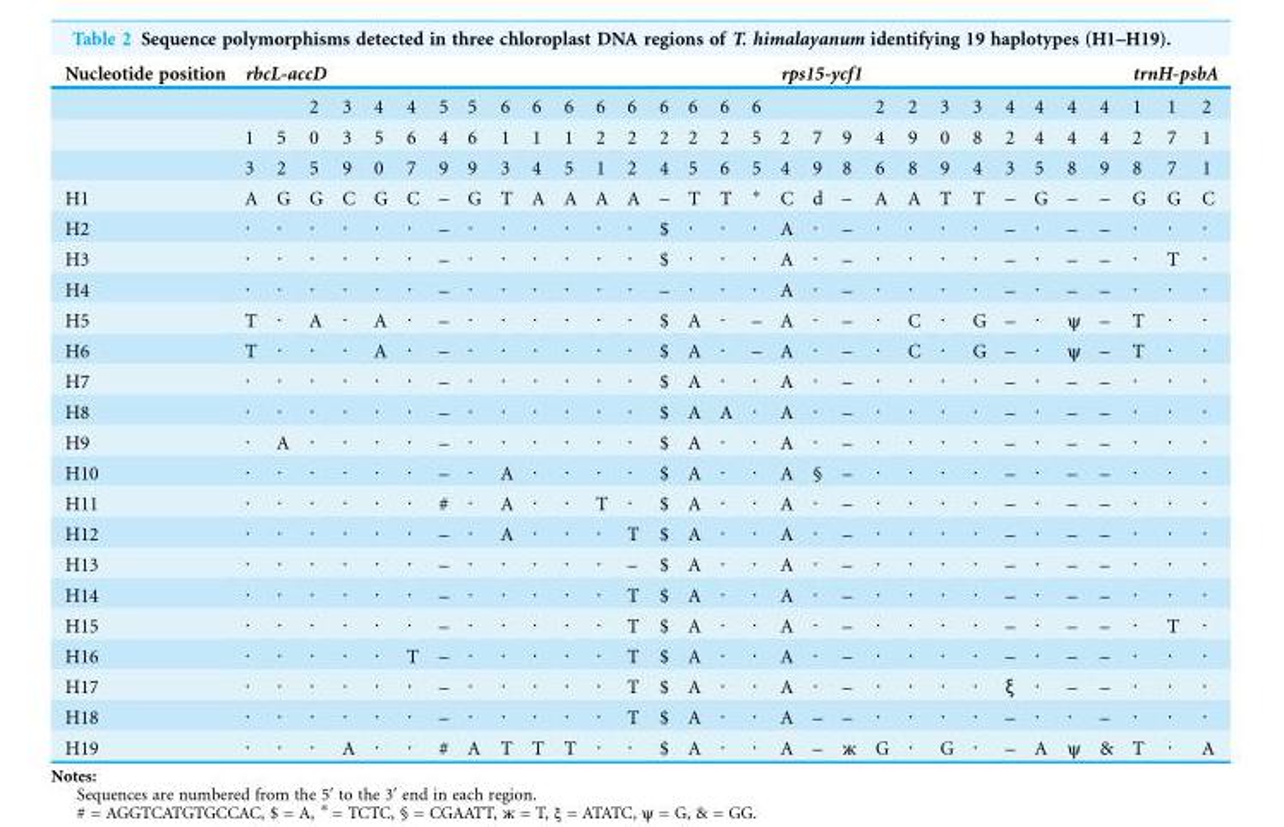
<table><thead><tr><td rowspan="2">Nucleotide position</td><td colspan="17">rbcL-accD</td><td colspan="11">rps15-ycf1</td><td colspan="3">trnH-psbA</td></tr><tr><td></td><td></td><td>2</td><td>3</td><td>4</td><td>4</td><td>5</td><td>5</td><td>6</td><td>6</td><td>6</td><td>6</td><td>6</td><td>6</td><td>6</td><td>6</td><td>6</td><td></td><td></td><td></td><td>2</td><td>2</td><td>3</td><td>3</td><td>4</td><td>4</td><td>4</td><td>4</td><td>1</td><td>1</td><td>2</td></tr></thead><tbody><tr><td></td><td>1</td><td>5</td><td>0</td><td>3</td><td>5</td><td>6</td><td>4</td><td>6</td><td>1</td><td>1</td><td>1</td><td>2</td><td>2</td><td>2</td><td>2</td><td>2</td><td>5</td><td>2</td><td>7</td><td>9</td><td>4</td><td>9</td><td>0</td><td>8</td><td>2</td><td>4</td><td>4</td><td>4</td><td>2</td><td>7</td><td>1</td></tr><tr><td></td><td>3</td><td>2</td><td>5</td><td>9</td><td>0</td><td>7</td><td>9</td><td>9</td><td>3</td><td>4</td><td>5</td><td>1</td><td>2</td><td>4</td><td>5</td><td>6</td><td>5</td><td>4</td><td>9</td><td>8</td><td>6</td><td>8</td><td>9</td><td>4</td><td>3</td><td>5</td><td>8</td><td>9</td><td>8</td><td>7</td><td>1</td></tr><tr><td>H1</td><td>A</td><td>G</td><td>G</td><td>C</td><td>G</td><td>C</td><td>–</td><td>G</td><td>T</td><td>A</td><td>A</td><td>A</td><td>A</td><td>–</td><td>T</td><td>T</td><td>*</td><td>C</td><td>d</td><td>–</td><td>A</td><td>A</td><td>T</td><td>T</td><td>–</td><td>G</td><td>–</td><td>–</td><td>G</td><td>G</td><td>C</td></tr><tr><td>H2</td><td>·</td><td>·</td><td>·</td><td>·</td><td>·</td><td>·</td><td>–</td><td>·</td><td>·</td><td>·</td><td>·</td><td>·</td><td>·</td><td>$</td><td>·</td><td>·</td><td>·</td><td>A</td><td>·</td><td>–</td><td>·</td><td>·</td><td>·</td><td>·</td><td>–</td><td>·</td><td>–</td><td>–</td><td>·</td><td>·</td><td>·</td></tr><tr><td>H3</td><td>·</td><td>·</td><td>·</td><td>·</td><td>·</td><td>·</td><td>–</td><td>·</td><td>·</td><td>·</td><td>·</td><td>·</td><td>·</td><td>$</td><td>·</td><td>·</td><td>·</td><td>A</td><td>·</td><td>–</td><td>·</td><td>·</td><td>·</td><td>·</td><td>–</td><td>·</td><td>–</td><td>–</td><td>·</td><td>T</td><td>·</td></tr><tr><td>H4</td><td>·</td><td>·</td><td>·</td><td>·</td><td>·</td><td>·</td><td>–</td><td>·</td><td>·</td><td>·</td><td>·</td><td>·</td><td>·</td><td>–</td><td>·</td><td>·</td><td>·</td><td>A</td><td>·</td><td>–</td><td>·</td><td>·</td><td>·</td><td>·</td><td>–</td><td>·</td><td>–</td><td>–</td><td>·</td><td>·</td><td>·</td></tr><tr><td>H5</td><td>T</td><td>·</td><td>A</td><td>·</td><td>A</td><td>·</td><td>–</td><td>·</td><td>·</td><td>·</td><td>·</td><td>·</td><td>·</td><td>$</td><td>A</td><td>·</td><td>–</td><td>A</td><td>·</td><td>–</td><td>·</td><td>C</td><td>·</td><td>G</td><td>–</td><td>·</td><td>ψ</td><td>–</td><td>T</td><td>·</td><td>·</td></tr><tr><td>H6</td><td>T</td><td>·</td><td>·</td><td>·</td><td>A</td><td>·</td><td>–</td><td>·</td><td>·</td><td>·</td><td>·</td><td>·</td><td>·</td><td>$</td><td>A</td><td>·</td><td>–</td><td>A</td><td>·</td><td>–</td><td>·</td><td>C</td><td>·</td><td>G</td><td>–</td><td>·</td><td>ψ</td><td>–</td><td>T</td><td>·</td><td>·</td></tr><tr><td>H7</td><td>·</td><td>·</td><td>·</td><td>·</td><td>·</td><td>·</td><td>–</td><td>·</td><td>·</td><td>·</td><td>·</td><td>·</td><td>·</td><td>$</td><td>A</td><td>·</td><td>·</td><td>A</td><td>·</td><td>–</td><td>·</td><td>·</td><td>·</td><td>·</td><td>–</td><td>·</td><td>–</td><td>–</td><td>·</td><td>·</td><td>·</td></tr><tr><td>H8</td><td>·</td><td>·</td><td>·</td><td>·</td><td>·</td><td>·</td><td>–</td><td>·</td><td>·</td><td>·</td><td>·</td><td>·</td><td>·</td><td>$</td><td>A</td><td>A</td><td>·</td><td>A</td><td>·</td><td>–</td><td>·</td><td>·</td><td>·</td><td>·</td><td>–</td><td>·</td><td>–</td><td>–</td><td>·</td><td>·</td><td>·</td></tr><tr><td>H9</td><td>·</td><td>A</td><td>·</td><td>·</td><td>·</td><td>·</td><td>–</td><td>·</td><td>·</td><td>·</td><td>·</td><td>·</td><td>·</td><td>$</td><td>A</td><td>·</td><td>·</td><td>A</td><td>·</td><td>–</td><td>·</td><td>·</td><td>·</td><td>·</td><td>–</td><td>·</td><td>–</td><td>–</td><td>·</td><td>·</td><td>·</td></tr><tr><td>H10</td><td>·</td><td>·</td><td>·</td><td>·</td><td>·</td><td>·</td><td>–</td><td>·</td><td>A</td><td>·</td><td>·</td><td>·</td><td>·</td><td>$</td><td>A</td><td>·</td><td>·</td><td>A</td><td>§</td><td>–</td><td>·</td><td>·</td><td>·</td><td>·</td><td>–</td><td>·</td><td>–</td><td>–</td><td>·</td><td>·</td><td>·</td></tr><tr><td>H11</td><td>·</td><td>·</td><td>·</td><td>·</td><td>·</td><td>·</td><td>#</td><td>·</td><td>A</td><td>·</td><td>·</td><td>T</td><td>·</td><td>$</td><td>A</td><td>·</td><td>·</td><td>A</td><td>·</td><td>–</td><td>·</td><td>·</td><td>·</td><td>·</td><td>–</td><td>·</td><td>–</td><td>–</td><td>·</td><td>·</td><td>·</td></tr><tr><td>H12</td><td>·</td><td>·</td><td>·</td><td>·</td><td>·</td><td>·</td><td>–</td><td>·</td><td>A</td><td>·</td><td>·</td><td>·</td><td>T</td><td>$</td><td>A</td><td>·</td><td>·</td><td>A</td><td>·</td><td>–</td><td>·</td><td>·</td><td>·</td><td>·</td><td>–</td><td>·</td><td>–</td><td>–</td><td>·</td><td>·</td><td>·</td></tr><tr><td>H13</td><td>·</td><td>·</td><td>·</td><td>·</td><td>·</td><td>·</td><td>–</td><td>·</td><td>·</td><td>·</td><td>·</td><td>·</td><td>–</td><td>$</td><td>A</td><td>·</td><td>·</td><td>A</td><td>·</td><td>–</td><td>·</td><td>·</td><td>·</td><td>·</td><td>–</td><td>·</td><td>–</td><td>–</td><td>·</td><td>·</td><td>·</td></tr><tr><td>H14</td><td>·</td><td>·</td><td>·</td><td>·</td><td>·</td><td>·</td><td>–</td><td>·</td><td>·</td><td>·</td><td>·</td><td>·</td><td>T</td><td>$</td><td>A</td><td>·</td><td>·</td><td>A</td><td>·</td><td>–</td><td>·</td><td>·</td><td>·</td><td>·</td><td>–</td><td>·</td><td>–</td><td>–</td><td>·</td><td>·</td><td>·</td></tr><tr><td>H15</td><td>·</td><td>·</td><td>·</td><td>·</td><td>·</td><td>·</td><td>–</td><td>·</td><td>·</td><td>·</td><td>·</td><td>·</td><td>T</td><td>$</td><td>A</td><td>·</td><td>·</td><td>A</td><td>·</td><td>–</td><td>·</td><td>·</td><td>·</td><td>·</td><td>–</td><td>·</td><td>–</td><td>–</td><td>·</td><td>T</td><td>·</td></tr><tr><td>H16</td><td>·</td><td>·</td><td>·</td><td>·</td><td>·</td><td>T</td><td>–</td><td>·</td><td>·</td><td>·</td><td>·</td><td>·</td><td>T</td><td>$</td><td>A</td><td>·</td><td>·</td><td>A</td><td>·</td><td>–</td><td>·</td><td>·</td><td>·</td><td>·</td><td>–</td><td>·</td><td>–</td><td>–</td><td>·</td><td>·</td><td>·</td></tr><tr><td>H17</td><td>·</td><td>·</td><td>·</td><td>·</td><td>·</td><td>·</td><td>–</td><td>·</td><td>·</td><td>·</td><td>·</td><td>·</td><td>T</td><td>$</td><td>A</td><td>·</td><td>·</td><td>A</td><td>·</td><td>–</td><td>·</td><td>·</td><td>·</td><td>·</td><td>ξ</td><td>·</td><td>–</td><td>–</td><td>·</td><td>·</td><td>·</td></tr><tr><td>H18</td><td>·</td><td>·</td><td>·</td><td>·</td><td>·</td><td>·</td><td>–</td><td>·</td><td>·</td><td>·</td><td>·</td><td>·</td><td>T</td><td>$</td><td>A</td><td>·</td><td>·</td><td>A</td><td>–</td><td>–</td><td>·</td><td>·</td><td>·</td><td>·</td><td>–</td><td>·</td><td>·</td><td>–</td><td>·</td><td>·</td><td>·</td></tr><tr><td>H19</td><td>·</td><td>·</td><td>·</td><td>A</td><td>·</td><td>·</td><td>#</td><td>A</td><td>T</td><td>T</td><td>T</td><td>·</td><td>·</td><td>$</td><td>A</td><td>·</td><td>·</td><td>A</td><td>–</td><td>ж</td><td>G</td><td>·</td><td>G</td><td>·</td><td>–</td><td>A</td><td>ψ</td><td>&amp;</td><td>T</td><td>·</td><td>A</td></tr></tbody></table>